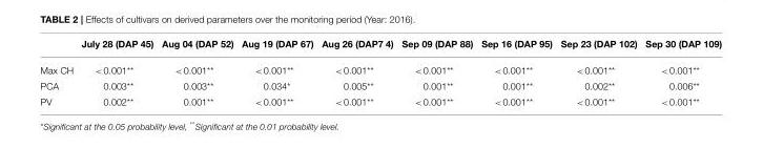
<table><thead><tr><td></td><td>July 28 (DAP 45)</td><td>Aug 04 (DAP 52)</td><td>Aug 19 (DAP 67)</td><td>Aug 26 (DAP7 4)</td><td>Sep 09 (DAP 88)</td><td>Sep 16 (DAP 95)</td><td>Sep 23 (DAP 102)</td><td>Sep 30 (DAP 109)</td></tr></thead><tbody><tr><td>Max CH</td><td>&lt;0.001**</td><td>&lt;0.001**</td><td>&lt;0.001**</td><td>&lt;0.001**</td><td>&lt;0.001**</td><td>&lt;0.001**</td><td>&lt;0.001**</td><td>&lt;0.001**</td></tr><tr><td>PCA</td><td>0.003**</td><td>0.003**</td><td>0.034*</td><td>0.005**</td><td>0.001**</td><td>0.001**</td><td>0.002**</td><td>0.006**</td></tr><tr><td>PV</td><td>0.002**</td><td>0.001**</td><td>&lt;0.001**</td><td>&lt;0.001**</td><td>&lt;0.001**</td><td>&lt;0.001**</td><td>&lt;0.001**</td><td>&lt;0.001**</td></tr></tbody></table>